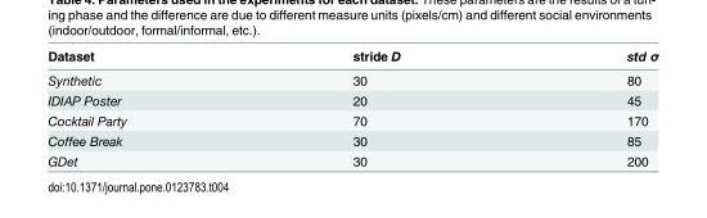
<table><thead><tr><td>Dataset</td><td>stride D</td><td>std σ</td></tr></thead><tbody><tr><td>Synthetic</td><td>30</td><td>80</td></tr><tr><td>IDIAP Poster</td><td>20</td><td>45</td></tr><tr><td>Cocktail Party</td><td>70</td><td>170</td></tr><tr><td>Coffee Break</td><td>30</td><td>85</td></tr><tr><td>GDet</td><td>30</td><td>200</td></tr></tbody></table>